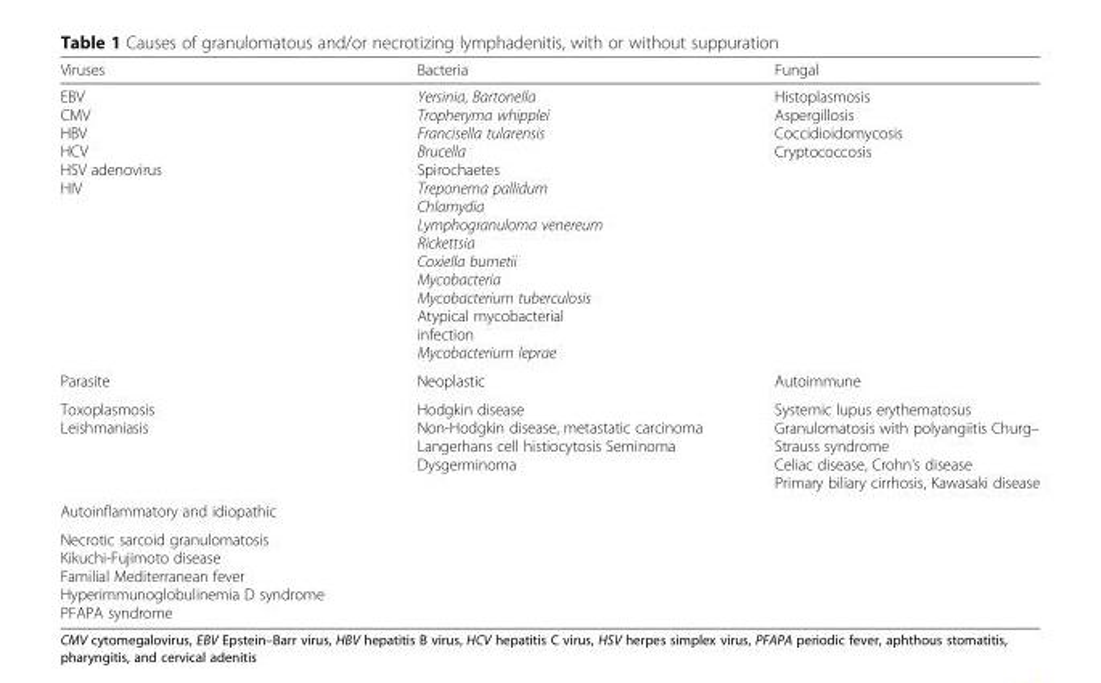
<table><thead><tr><td>Viruses</td><td>Bacteria</td><td>Fungal</td></tr></thead><tbody><tr><td>EBV CMV HBV HCV HSV adenovirus HIV</td><td>Yersinia, Bartonella Tropheryma whipplei Francisella tularensis Brucella Spirochaetes Treponema pallidum Chlamydia Lymphogranuloma venereum Rickettsia Coxiella burnetii Mycobacteria Mycobacterium tuberculosis Atypical mycobacterial infection Mycobacterium leprae</td><td>Histoplasmosis Aspergillosis Coccidioidomycosis Cryptococcosis</td></tr><tr><td>Parasite</td><td>Neoplastic</td><td>Autoimmune</td></tr><tr><td>Toxoplasmosis Leishmaniasis</td><td>Hodgkin disease Non-Hodgkin disease, metastatic carcinoma Langerhans cell histiocytosis Seminoma Dysgerminoma</td><td>Systemic lupus erythematosus Granulomatosis with polyangiitis Churg– Strauss syndrome Celiac disease, Crohn’s disease Primary biliary cirrhosis, Kawasaki disease</td></tr><tr><td colspan="3">Autoinflammatory and idiopathic</td></tr><tr><td colspan="3">Necrotic sarcoid granulomatosis Kikuchi-Fujimoto disease Familial Mediterranean fever Hyperimmunoglobulinemia D syndrome PFAPA syndrome</td></tr></tbody></table>